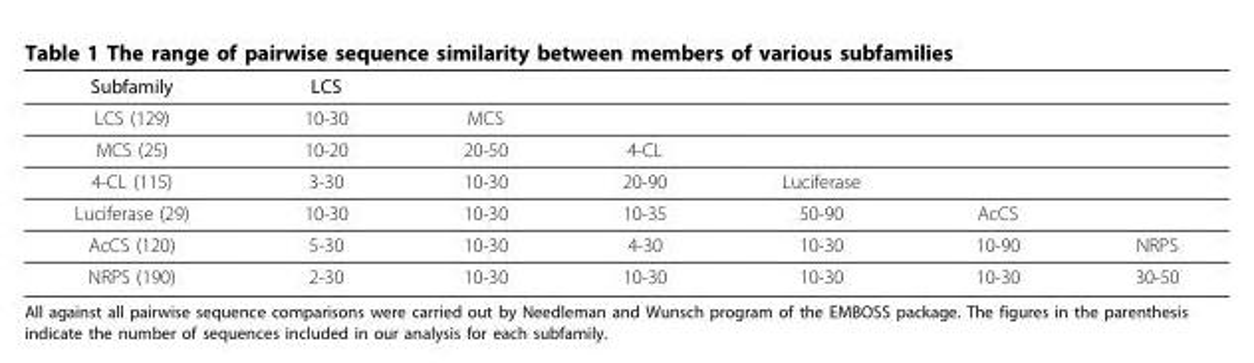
<table><thead><tr><td>Subfamily</td><td>LCS</td><td></td><td></td><td></td><td></td><td></td></tr></thead><tbody><tr><td>LCS (129)</td><td>10-30</td><td>MCS</td><td></td><td></td><td></td><td></td></tr><tr><td>MCS (25)</td><td>10-20</td><td>20-50</td><td>4-CL</td><td></td><td></td><td></td></tr><tr><td>4-CL (115)</td><td>3-30</td><td>10-30</td><td>20-90</td><td>Luciferase</td><td></td><td></td></tr><tr><td>Luciferase (29)</td><td>10-30</td><td>10-30</td><td>10-35</td><td>50-90</td><td>AcCS</td><td></td></tr><tr><td>AcCS (120)</td><td>5-30</td><td>10-30</td><td>4-30</td><td>10-30</td><td>10-90</td><td>NRPS</td></tr><tr><td>NRPS (190)</td><td>2-30</td><td>10-30</td><td>10-30</td><td>10-30</td><td>10-30</td><td>30-50</td></tr></tbody></table>